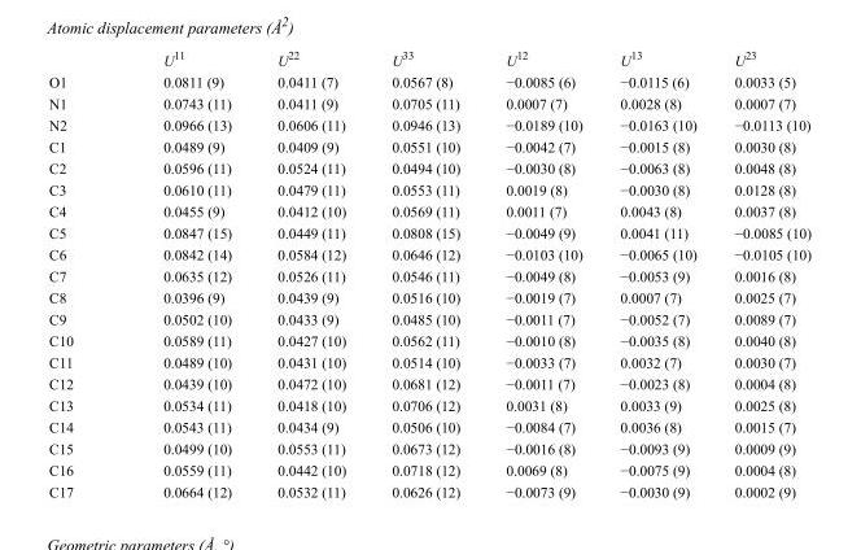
<table><thead><tr><td></td><td>U<sup>11</sup></td><td>U<sup>22</sup></td><td>U<sup>33</sup></td><td>U<sup>12</sup></td><td>U<sup>13</sup></td><td>U<sup>23</sup></td></tr></thead><tbody><tr><td>O1</td><td>0.0811 (9)</td><td>0.0411 (7)</td><td>0.0567 (8)</td><td>−0.0085 (6)</td><td>−0.0115 (6)</td><td>0.0033 (5)</td></tr><tr><td>N1</td><td>0.0743 (11)</td><td>0.0411 (9)</td><td>0.0705 (11)</td><td>0.0007 (7)</td><td>0.0028 (8)</td><td>0.0007 (7)</td></tr><tr><td>N2</td><td>0.0966 (13)</td><td>0.0606 (11)</td><td>0.0946 (13)</td><td>−0.0189 (10)</td><td>−0.0163 (10)</td><td>−0.0113 (10)</td></tr><tr><td>C1</td><td>0.0489 (9)</td><td>0.0409 (9)</td><td>0.0551 (10)</td><td>−0.0042 (7)</td><td>−0.0015 (8)</td><td>0.0030 (8)</td></tr><tr><td>C2</td><td>0.0596 (11)</td><td>0.0524 (11)</td><td>0.0494 (10)</td><td>−0.0030 (8)</td><td>−0.0063 (8)</td><td>0.0048 (8)</td></tr><tr><td>C3</td><td>0.0610 (11)</td><td>0.0479 (11)</td><td>0.0553 (11)</td><td>0.0019 (8)</td><td>−0.0030 (8)</td><td>0.0128 (8)</td></tr><tr><td>C4</td><td>0.0455 (9)</td><td>0.0412 (10)</td><td>0.0569 (11)</td><td>0.0011 (7)</td><td>0.0043 (8)</td><td>0.0037 (8)</td></tr><tr><td>C5</td><td>0.0847 (15)</td><td>0.0449 (11)</td><td>0.0808 (15)</td><td>−0.0049 (9)</td><td>0.0041 (11)</td><td>−0.0085 (10)</td></tr><tr><td>C6</td><td>0.0842 (14)</td><td>0.0584 (12)</td><td>0.0646 (12)</td><td>−0.0103 (10)</td><td>−0.0065 (10)</td><td>−0.0105 (10)</td></tr><tr><td>C7</td><td>0.0635 (12)</td><td>0.0526 (11)</td><td>0.0546 (11)</td><td>−0.0049 (8)</td><td>−0.0053 (9)</td><td>0.0016 (8)</td></tr><tr><td>C8</td><td>0.0396 (9)</td><td>0.0439 (9)</td><td>0.0516 (10)</td><td>−0.0019 (7)</td><td>0.0007 (7)</td><td>0.0025 (7)</td></tr><tr><td>C9</td><td>0.0502 (10)</td><td>0.0433 (9)</td><td>0.0485 (10)</td><td>−0.0011 (7)</td><td>−0.0052 (7)</td><td>0.0089 (7)</td></tr><tr><td>C10</td><td>0.0589 (11)</td><td>0.0427 (10)</td><td>0.0562 (11)</td><td>−0.0010 (8)</td><td>−0.0035 (8)</td><td>0.0040 (8)</td></tr><tr><td>C11</td><td>0.0489 (10)</td><td>0.0431 (10)</td><td>0.0514 (10)</td><td>−0.0033 (7)</td><td>0.0032 (7)</td><td>0.0030 (7)</td></tr><tr><td>C12</td><td>0.0439 (10)</td><td>0.0472 (10)</td><td>0.0681 (12)</td><td>−0.0011 (7)</td><td>−0.0023 (8)</td><td>0.0004 (8)</td></tr><tr><td>C13</td><td>0.0534 (11)</td><td>0.0418 (10)</td><td>0.0706 (12)</td><td>0.0031 (8)</td><td>0.0033 (9)</td><td>0.0025 (8)</td></tr><tr><td>C14</td><td>0.0543 (11)</td><td>0.0434 (9)</td><td>0.0506 (10)</td><td>−0.0084 (7)</td><td>0.0036 (8)</td><td>0.0015 (7)</td></tr><tr><td>C15</td><td>0.0499 (10)</td><td>0.0553 (11)</td><td>0.0673 (12)</td><td>−0.0016 (8)</td><td>−0.0093 (9)</td><td>0.0009 (9)</td></tr><tr><td>C16</td><td>0.0559 (11)</td><td>0.0442 (10)</td><td>0.0718 (12)</td><td>0.0069 (8)</td><td>−0.0075 (9)</td><td>0.0004 (8)</td></tr><tr><td>C17</td><td>0.0664 (12)</td><td>0.0532 (11)</td><td>0.0626 (12)</td><td>−0.0073 (9)</td><td>−0.0030 (9)</td><td>0.0002 (9)</td></tr></tbody></table>